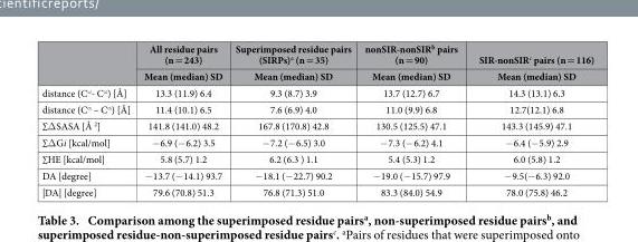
<table><thead><tr><td rowspan="2"></td><td rowspan="2">All residue pairs (n = 243) Mean (median) SD</td><td rowspan="2">Superimposed residue pairs (SIRPs)<sup>a</sup> (n = 35) Mean (median) SD</td><td rowspan="2">nonSIR-nonSIR<sup>b</sup> pairs (n = 90) Mean (median) SD</td><td rowspan="2">SIR-nonSIR<sup>c</sup> pairs (n = 116) Mean (median) SD</td></tr><tr></tr></thead><tbody><tr><td>distance (C<sup>ω</sup>- C<sup>ω</sup>) [Å]</td><td>13.3 (11.9) 6.4</td><td>9.3 (8.7) 3.9</td><td>13.7 (12.7) 6.7</td><td>14.3 (13.1) 6.3</td></tr><tr><td>distance (C<sup>α</sup> – C<sup>α</sup>) [Å]</td><td>11.4 (10.1) 6.5</td><td>7.6 (6.9) 4.0</td><td>11.0 (9.9) 6.8</td><td>12.7(12.1) 6.8</td></tr><tr><td>∑Δ SASA [Å <sup>2</sup>]</td><td>141.8 (141.0) 48.2</td><td>167.8 (170.8) 42.8</td><td>130.5 (125.5) 47.1</td><td>143.3 (145.9) 47.1</td></tr><tr><td>∑Δ Gi [kcal/mol]</td><td>− 6.9 (− 6.2) 3.5</td><td>− 7.2 (− 6.5) 3.0</td><td>− 7.3 (− 6.2) 4.1</td><td>− 6.4 (− 5.9) 2.9</td></tr><tr><td>∑HE [kcal/mol]</td><td>5.8 (5.7) 1.2</td><td>6.2 (6.3 ) 1.1</td><td>5.4 (5.3) 1.2</td><td>6.0 (5.8) 1.2</td></tr><tr><td>DA [degree]</td><td>− 13.7 (− 14.1) 93.7</td><td>− 18.1 (− 22.7) 90.2</td><td>− 19.0 (− 15.7) 97.9</td><td>− 9.5(− 6.3) 92.0</td></tr><tr><td>|DA| [degree]</td><td>79.6 (70.8) 51.3</td><td>76.8 (71.3) 51.0</td><td>83.3 (84.0) 54.9</td><td>78.0 (75.8) 46.2</td></tr></tbody></table>